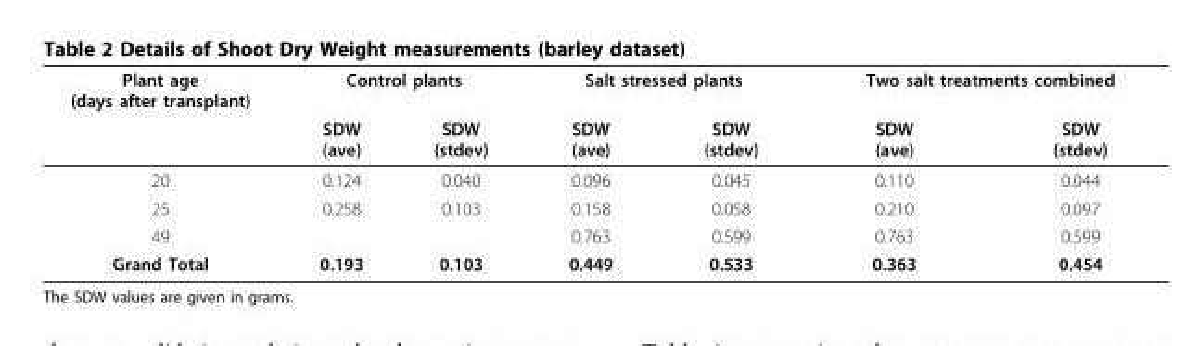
<table><thead><tr><td rowspan="2">Plant age (days after transplant)</td><td colspan="2">Control plants</td><td colspan="2">Salt stressed plants</td><td colspan="2">Two salt treatments combined</td></tr><tr><td>SDW (ave)</td><td>SDW (stdev)</td><td>SDW (ave)</td><td>SDW (stdev)</td><td>SDW (ave)</td><td>SDW (stdev)</td></tr></thead><tbody><tr><td>20</td><td>0.124</td><td>0.040</td><td>0.096</td><td>0.045</td><td>0.110</td><td>0.044</td></tr><tr><td>25</td><td>0.258</td><td>0.103</td><td>0.158</td><td>0.058</td><td>0.210</td><td>0.097</td></tr><tr><td>49</td><td></td><td></td><td>0.763</td><td>0.599</td><td>0.763</td><td>0.599</td></tr><tr><td>Grand Total</td><td>0.193</td><td>0.103</td><td>0.449</td><td>0.533</td><td>0.363</td><td>0.454</td></tr></tbody></table>